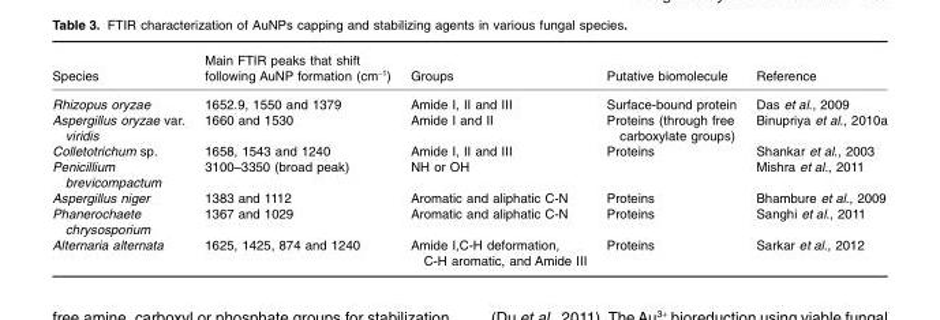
<table><thead><tr><td>Species</td><td>Main FTIR peaks that shift following AuNP formation (cm<sup>−1</sup>)</td><td>Groups</td><td>Putative biomolecule</td><td>Reference</td></tr></thead><tbody><tr><td>Rhizopus oryzae</td><td>1652.9, 1550 and 1379</td><td>Amide I, II and III</td><td>Surface-bound protein</td><td>Das et al., 2009</td></tr><tr><td>Aspergillus oryzae var. viridis</td><td>1660 and 1530</td><td>Amide I and II</td><td>Proteins (through free carboxylate groups)</td><td>Binupriya et al., 2010a</td></tr><tr><td>Colletotrichum sp.</td><td>1658, 1543 and 1240</td><td>Amide I, II and III</td><td>Proteins</td><td>Shankar et al., 2003</td></tr><tr><td>Penicillium brevicompactum</td><td>3100–3350 (broad peak)</td><td>NH or OH</td><td></td><td>Mishra et al., 2011</td></tr><tr><td>Aspergillus niger</td><td>1383 and 1112</td><td>Aromatic and aliphatic C-N</td><td>Proteins</td><td>Bhambure et al., 2009</td></tr><tr><td>Phanerochaete chrysosporium</td><td>1367 and 1029</td><td>Aromatic and aliphatic C-N</td><td>Proteins</td><td>Sanghi et al., 2011</td></tr><tr><td>Alternaria alternata</td><td>1625, 1425, 874 and 1240</td><td>Amide I,C-H deformation, C-H aromatic, and Amide III</td><td>Proteins</td><td>Sarkar et al., 2012</td></tr></tbody></table>